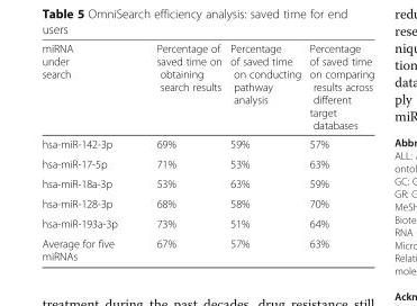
<table><thead><tr><td>miRNA under search</td><td>Percentage of saved time on obtaining search results</td><td>Percentage of saved time on conducting pathway analysis</td><td>Percentage of saved time on comparing results across different target databases</td></tr></thead><tbody><tr><td>hsa-miR-142-3p</td><td>69%</td><td>59%</td><td>57%</td></tr><tr><td>hsa-miR-17-5p</td><td>71%</td><td>53%</td><td>63%</td></tr><tr><td>hsa-miR-18a-3p</td><td>53%</td><td>63%</td><td>59%</td></tr><tr><td>hsa-miR-128-3p</td><td>68%</td><td>58%</td><td>70%</td></tr><tr><td>hsa-miR-193a-3p</td><td>73%</td><td>51%</td><td>64%</td></tr><tr><td>Average for five miRNAs</td><td>67%</td><td>57%</td><td>63%</td></tr></tbody></table>